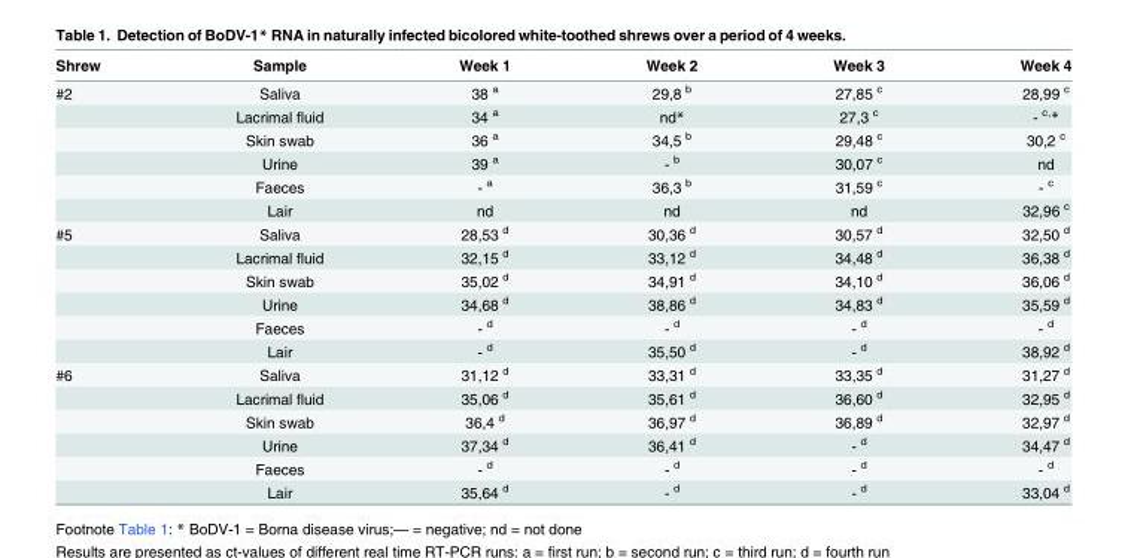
<table><thead><tr><td>Shrew</td><td>Sample</td><td>Week 1</td><td>Week 2</td><td>Week 3</td><td>Week 4</td></tr></thead><tbody><tr><td rowspan="6">#2</td><td>Saliva</td><td>38 <sup>a</sup></td><td>29,8 <sup>b</sup></td><td>27,85 <sup>c</sup></td><td>28,99 <sup>c</sup></td></tr><tr><td>Lacrimal fluid</td><td>34 <sup>a</sup></td><td>nd*</td><td>27,3 <sup>c</sup></td><td>- <sup>c,</sup>*</td></tr><tr><td>Skin swab</td><td>36 <sup>a</sup></td><td>34,5 <sup>b</sup></td><td>29,48 <sup>c</sup></td><td>30,2 <sup>c</sup></td></tr><tr><td>Urine</td><td>39 <sup>a</sup></td><td>- <sup>b</sup></td><td>30,07 <sup>c</sup></td><td>nd</td></tr><tr><td>Faeces</td><td>- <sup>a</sup></td><td>36,3 <sup>b</sup></td><td>31,59 <sup>c</sup></td><td>- <sup>c</sup></td></tr><tr><td>Lair</td><td>nd</td><td>nd</td><td>nd</td><td>32,96 <sup>c</sup></td></tr><tr><td rowspan="6">#5</td><td>Saliva</td><td>28,53 <sup>d</sup></td><td>30,36 <sup>d</sup></td><td>30,57 <sup>d</sup></td><td>32,50 <sup>d</sup></td></tr><tr><td>Lacrimal fluid</td><td>32,15 <sup>d</sup></td><td>33,12 <sup>d</sup></td><td>34,48 <sup>d</sup></td><td>36,38 <sup>d</sup></td></tr><tr><td>Skin swab</td><td>35,02 <sup>d</sup></td><td>34,91 <sup>d</sup></td><td>34,10 <sup>d</sup></td><td>36,06 <sup>d</sup></td></tr><tr><td>Urine</td><td>34,68 <sup>d</sup></td><td>38,86 <sup>d</sup></td><td>34,83 <sup>d</sup></td><td>35,59 <sup>d</sup></td></tr><tr><td>Faeces</td><td>- <sup>d</sup></td><td>- <sup>d</sup></td><td>- <sup>d</sup></td><td>- <sup>d</sup></td></tr><tr><td>Lair</td><td>- <sup>d</sup></td><td>35,50 <sup>d</sup></td><td>- <sup>d</sup></td><td>38,92 <sup>d</sup></td></tr><tr><td rowspan="6">#6</td><td>Saliva</td><td>31,12 <sup>d</sup></td><td>33,31 <sup>d</sup></td><td>33,35 <sup>d</sup></td><td>31,27 <sup>d</sup></td></tr><tr><td>Lacrimal fluid</td><td>35,06 <sup>d</sup></td><td>35,61 <sup>d</sup></td><td>36,60 <sup>d</sup></td><td>32,95 <sup>d</sup></td></tr><tr><td>Skin swab</td><td>36,4 <sup>d</sup></td><td>36,97 <sup>d</sup></td><td>36,89 <sup>d</sup></td><td>32,97 <sup>d</sup></td></tr><tr><td>Urine</td><td>37,34 <sup>d</sup></td><td>36,41 <sup>d</sup></td><td>- <sup>d</sup></td><td>34,47 <sup>d</sup></td></tr><tr><td>Faeces</td><td>- <sup>d</sup></td><td>- <sup>d</sup></td><td>- <sup>d</sup></td><td>- <sup>d</sup></td></tr><tr><td>Lair</td><td>35,64 <sup>d</sup></td><td>- <sup>d</sup></td><td>- <sup>d</sup></td><td>33,04 <sup>d</sup></td></tr></tbody></table>